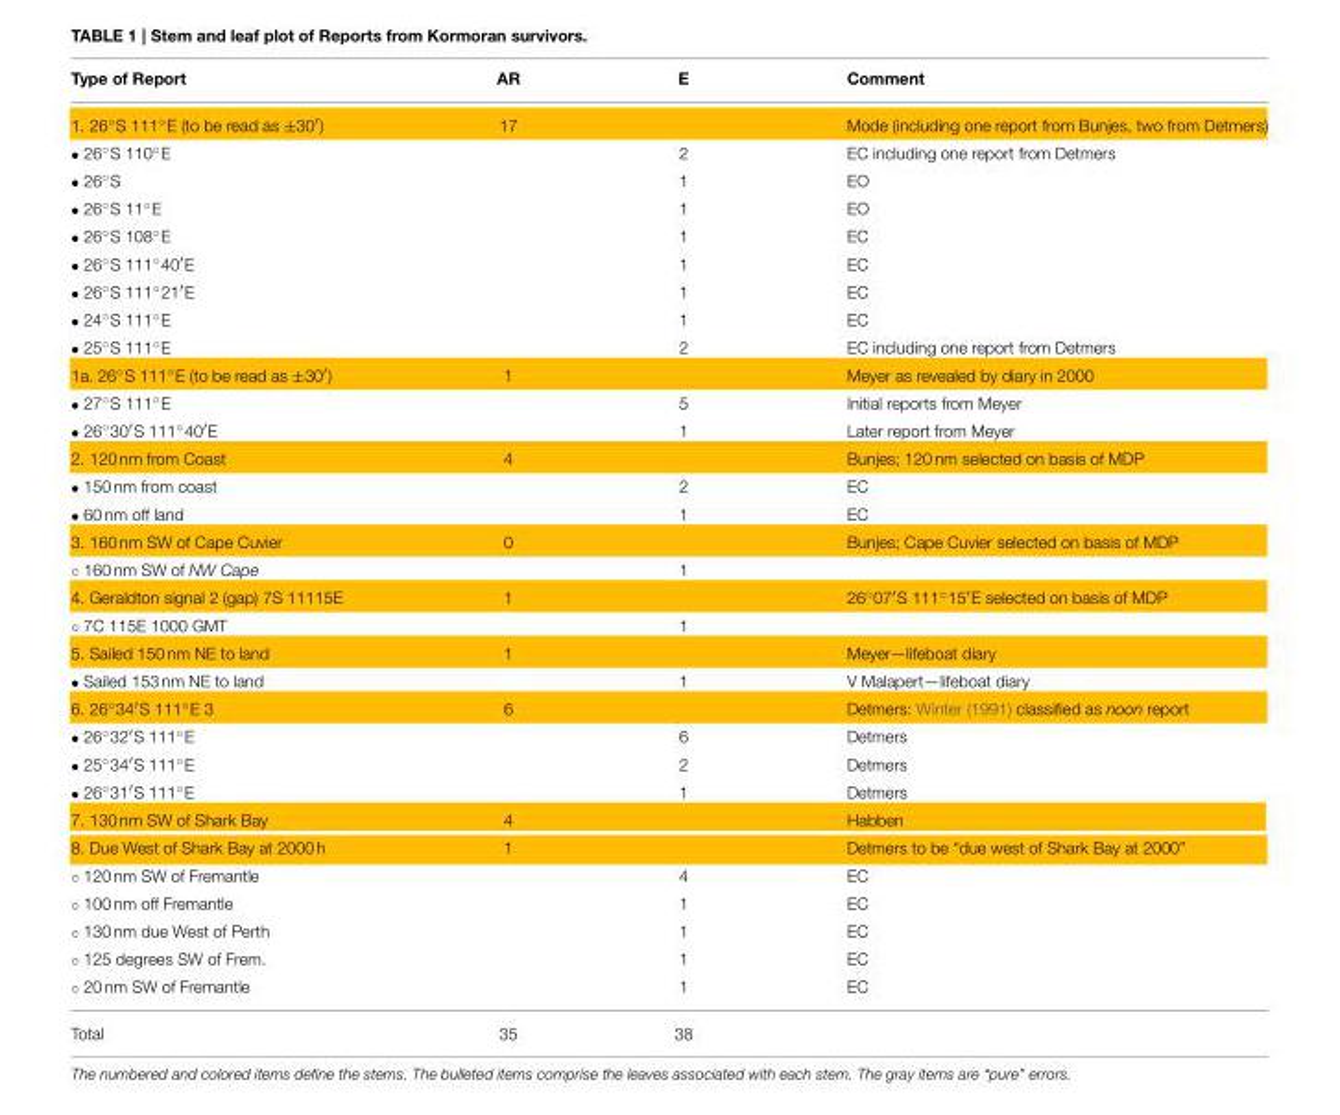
<table><thead><tr><td>Type of Report</td><td>AR</td><td>E</td><td>Comment</td></tr></thead><tbody><tr><td>1. 26◦S 111◦E (to be read as ±30′)</td><td>17</td><td></td><td>Mode (including one report from Bunjes, two from Detmers)</td></tr><tr><td>• 26◦S 110◦E</td><td></td><td>2</td><td>EC including one report from Detmers</td></tr><tr><td>• 26◦S</td><td></td><td>1</td><td>EO</td></tr><tr><td>• 26◦S 11◦E</td><td></td><td>1</td><td>EO</td></tr><tr><td>• 26◦S 108◦E</td><td></td><td>1</td><td>EC</td></tr><tr><td>• 26◦S 111◦40′E</td><td></td><td>1</td><td>EC</td></tr><tr><td>• 26◦S 111◦21′E</td><td></td><td>1</td><td>EC</td></tr><tr><td>• 24◦S 111◦E</td><td></td><td>1</td><td>EC</td></tr><tr><td>• 25◦S 111◦E</td><td></td><td>2</td><td>EC including one report from Detmers</td></tr><tr><td>1a. 26◦S 111◦E (to be read as ±30′)</td><td>1</td><td></td><td>Meyer as revealed by diary in 2000</td></tr><tr><td>• 27◦S 111◦E</td><td></td><td>5</td><td>Initial reports from Meyer</td></tr><tr><td>• 26◦30′S 111◦40′E</td><td></td><td>1</td><td>Later report from Meyer</td></tr><tr><td>2. 120 nm from Coast</td><td>4</td><td></td><td>Bunjes; 120 nm selected on basis of MDP</td></tr><tr><td>• 150 nm from coast</td><td></td><td>2</td><td>EC</td></tr><tr><td>• 60 nm off land</td><td></td><td>1</td><td>EC</td></tr><tr><td>3. 160 nm SW of Cape Cuvier</td><td>0</td><td></td><td>Bunjes; Cape Cuvier selected on basis of MDP</td></tr><tr><td>◦ 160 nm SW of NW Cape</td><td></td><td>1</td><td></td></tr><tr><td>4. Geraldton signal 2 (gap) 7S 11115E</td><td>1</td><td></td><td>26◦07′S 111◦15′E selected on basis of MDP</td></tr><tr><td>◦ 7C 115E 1000 GMT</td><td></td><td>1</td><td></td></tr><tr><td>5. Sailed 150 nm NE to land</td><td>1</td><td></td><td>Meyer—lifeboat diary</td></tr><tr><td>• Sailed 153 nm NE to land</td><td></td><td>1</td><td>V Malapert—lifeboat diary</td></tr><tr><td>6. 26◦34′S 111◦E 3</td><td>6</td><td></td><td>Detmers: Winter (1991) classified as noon report</td></tr><tr><td>• 26◦32′S 111◦E</td><td></td><td>6</td><td>Detmers</td></tr><tr><td>• 25◦34′S 111◦E</td><td></td><td>2</td><td>Detmers</td></tr><tr><td>• 26◦31′S 111◦E</td><td></td><td>1</td><td>Detmers</td></tr><tr><td>7. 130 nm SW of Shark Bay</td><td>4</td><td></td><td>Habben</td></tr><tr><td>8. Due West of Shark Bay at 2000 h</td><td>1</td><td></td><td>Detmers to be “due west of Shark Bay at 2000”</td></tr><tr><td>◦ 120 nm SW of Fremantle</td><td></td><td>4</td><td>EC</td></tr><tr><td>◦ 100 nm off Fremantle</td><td></td><td>1</td><td>EC</td></tr><tr><td>◦ 130 nm due West of Perth</td><td></td><td>1</td><td>EC</td></tr><tr><td>◦ 125 degrees SW of Frem.</td><td></td><td>1</td><td>EC</td></tr><tr><td>◦ 20 nm SW of Fremantle</td><td></td><td>1</td><td>EC</td></tr><tr><td>Total</td><td>35</td><td>38</td><td></td></tr></tbody></table>